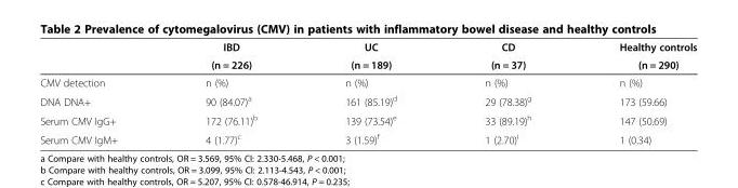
<table><thead><tr><td rowspan="2"></td><td rowspan="2">IBD (n = 226)</td><td rowspan="2">UC (n = 189)</td><td rowspan="2">CD (n = 37)</td><td rowspan="2">Healthy controls (n = 290)</td></tr><tr></tr></thead><tbody><tr><td>CMV detection</td><td>n (%)</td><td>n (%)</td><td>n (%)</td><td>n (%)</td></tr><tr><td>DNA DNA+</td><td>90 (84.07)<sup>a</sup></td><td>161 (85.19)<sup>d</sup></td><td>29 (78.38)<sup>g</sup></td><td>173 (59.66)</td></tr><tr><td>Serum CMV IgG+</td><td>172 (76.11)<sup>b</sup></td><td>139 (73.54)<sup>e</sup></td><td>33 (89.19)<sup>h</sup></td><td>147 (50.69)</td></tr><tr><td>Serum CMV IgM+</td><td>4 (1.77)<sup>c</sup></td><td>3 (1.59)<sup>f</sup></td><td>1 (2.70)<sup>i</sup></td><td>1 (0.34)</td></tr></tbody></table>